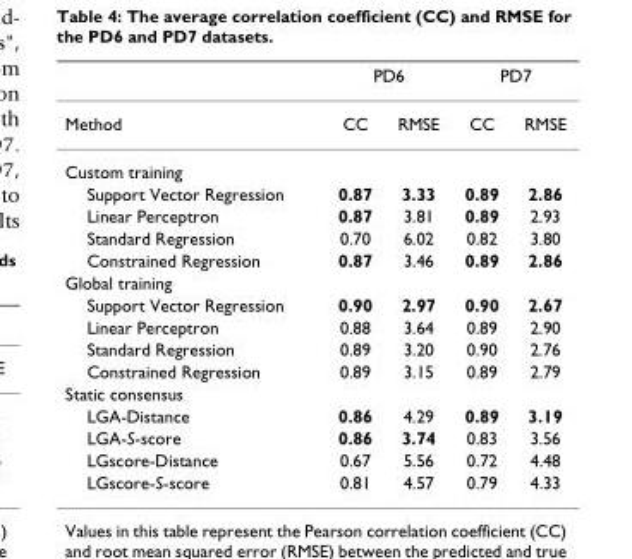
<table><thead><tr><td rowspan="2">Method</td><td colspan="2">PD6</td><td colspan="2">PD7</td></tr><tr><td>CC</td><td>RMSE</td><td>CC</td><td>RMSE</td></tr></thead><tbody><tr><td colspan="5">Custom training</td></tr><tr><td>Support Vector Regression</td><td>0.87</td><td>3.33</td><td>0.89</td><td>2.86</td></tr><tr><td>Linear Perceptron</td><td>0.87</td><td>3.81</td><td>0.89</td><td>2.93</td></tr><tr><td>Standard Regression</td><td>0.70</td><td>6.02</td><td>0.82</td><td>3.80</td></tr><tr><td>Constrained Regression</td><td>0.87</td><td>3.46</td><td>0.89</td><td>2.86</td></tr><tr><td colspan="5">Global training</td></tr><tr><td>Support Vector Regression</td><td>0.90</td><td>2.97</td><td>0.90</td><td>2.67</td></tr><tr><td>Linear Perceptron</td><td>0.88</td><td>3.64</td><td>0.89</td><td>2.90</td></tr><tr><td>Standard Regression</td><td>0.89</td><td>3.20</td><td>0.90</td><td>2.76</td></tr><tr><td>Constrained Regression</td><td>0.89</td><td>3.15</td><td>0.89</td><td>2.79</td></tr><tr><td colspan="5">Static consensus</td></tr><tr><td>LGA-Distance</td><td>0.86</td><td>4.29</td><td>0.89</td><td>3.19</td></tr><tr><td>LGA-S-score</td><td>0.86</td><td>3.74</td><td>0.83</td><td>3.56</td></tr><tr><td>LGscore-Distance</td><td>0.67</td><td>5.56</td><td>0.72</td><td>4.48</td></tr><tr><td>LGscore-S-score</td><td>0.81</td><td>4.57</td><td>0.79</td><td>4.33</td></tr></tbody></table>